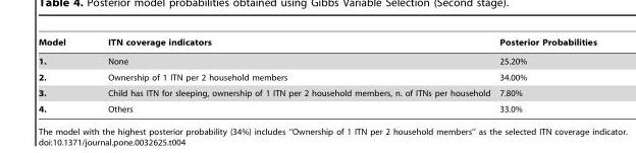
<table><thead><tr><td>Model</td><td>ITN coverage indicators</td><td>Posterior Probabilities</td></tr></thead><tbody><tr><td>1.</td><td>None</td><td>25.20%</td></tr><tr><td>2.</td><td>Ownership of 1 ITN per 2 household members</td><td>34.00%</td></tr><tr><td>3.</td><td>Child has ITN for sleeping, ownership of 1 ITN per 2 household members, n. of ITNs per household</td><td>7.80%</td></tr><tr><td>4.</td><td>Others</td><td>33.0%</td></tr></tbody></table>